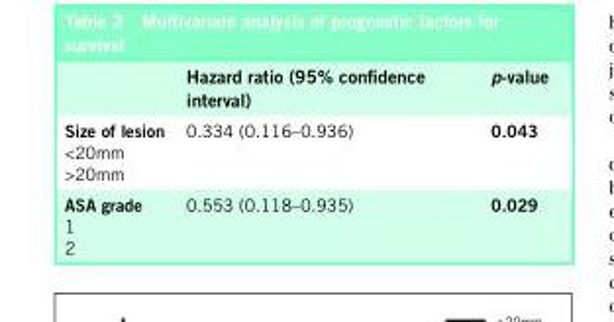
<table><thead><tr><td></td><td>Hazard ratio (95% confi dence interval)</td><td>p-value</td></tr></thead><tbody><tr><td>Size of lesion &lt;20mm &gt;20mm</td><td>0.334 (0.116–0.936)</td><td>0.043</td></tr><tr><td>ASA grade 1 2</td><td>0.553 (0.118–0.935)</td><td>0.029</td></tr></tbody></table>